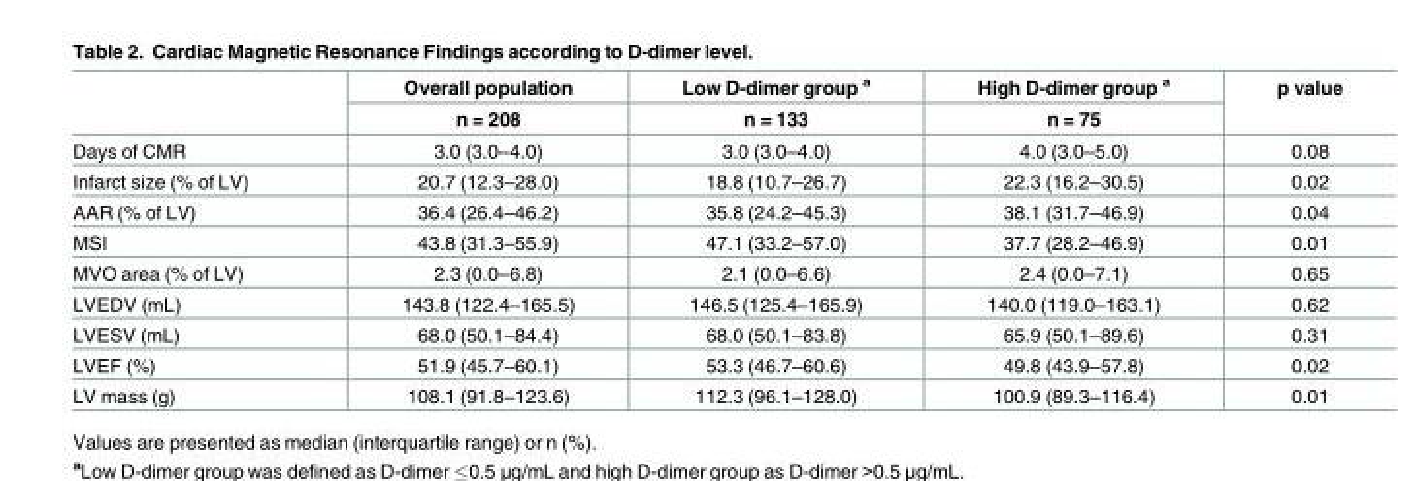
<table><thead><tr><td rowspan="2"></td><td rowspan="2">Overall population n = 208</td><td rowspan="2">Low D-dimer group <sup>a</sup> n = 133</td><td rowspan="2">High D-dimer group <sup>a</sup> n = 75</td><td rowspan="2">p value</td></tr><tr></tr></thead><tbody><tr><td>Days of CMR</td><td>3.0 (3.0–4.0)</td><td>3.0 (3.0–4.0)</td><td>4.0 (3.0–5.0)</td><td>0.08</td></tr><tr><td>Infarct size (% of LV)</td><td>20.7 (12.3–28.0)</td><td>18.8 (10.7–26.7)</td><td>22.3 (16.2–30.5)</td><td>0.02</td></tr><tr><td>AAR (% of LV)</td><td>36.4 (26.4–46.2)</td><td>35.8 (24.2–45.3)</td><td>38.1 (31.7–46.9)</td><td>0.04</td></tr><tr><td>MSI</td><td>43.8 (31.3–55.9)</td><td>47.1 (33.2–57.0)</td><td>37.7 (28.2–46.9)</td><td>0.01</td></tr><tr><td>MVO area (% of LV)</td><td>2.3 (0.0–6.8)</td><td>2.1 (0.0–6.6)</td><td>2.4 (0.0–7.1)</td><td>0.65</td></tr><tr><td>LVEDV (mL)</td><td>143.8 (122.4–165.5)</td><td>146.5 (125.4–165.9)</td><td>140.0 (119.0–163.1)</td><td>0.62</td></tr><tr><td>LVESV (mL)</td><td>68.0 (50.1–84.4)</td><td>68.0 (50.1–83.8)</td><td>65.9 (50.1–89.6)</td><td>0.31</td></tr><tr><td>LVEF (%)</td><td>51.9 (45.7–60.1)</td><td>53.3 (46.7–60.6)</td><td>49.8 (43.9–57.8)</td><td>0.02</td></tr><tr><td>LV mass (g)</td><td>108.1 (91.8–123.6)</td><td>112.3 (96.1–128.0)</td><td>100.9 (89.3–116.4)</td><td>0.01</td></tr></tbody></table>